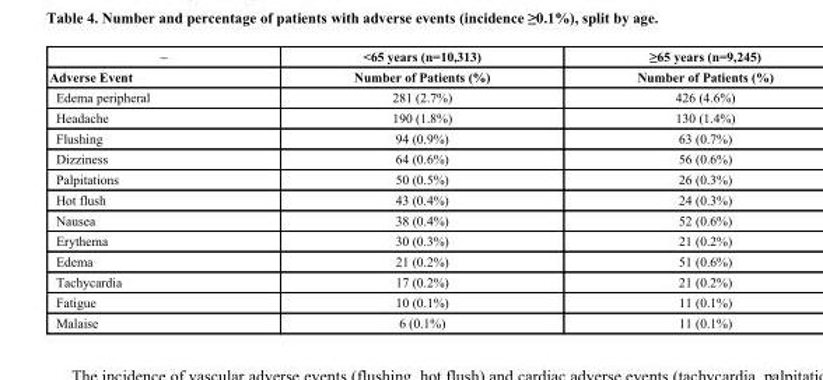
<table><thead><tr><td rowspan="2">– Adverse Event</td><td rowspan="2">&lt;65 years (n=10,313) Number of Patients (%)</td><td rowspan="2">≥65 years (n=9,245) Number of Patients (%)</td></tr><tr></tr></thead><tbody><tr><td>Edema peripheral</td><td>281 (2.7%)</td><td>426 (4.6%)</td></tr><tr><td>Headache</td><td>190 (1.8%)</td><td>130 (1.4%)</td></tr><tr><td>Flushing</td><td>94 (0.9%)</td><td>63 (0.7%)</td></tr><tr><td>Dizziness</td><td>64 (0.6%)</td><td>56 (0.6%)</td></tr><tr><td>Palpitations</td><td>50 (0.5%)</td><td>26 (0.3%)</td></tr><tr><td>Hot flush</td><td>43 (0.4%)</td><td>24 (0.3%)</td></tr><tr><td>Nausea</td><td>38 (0.4%)</td><td>52 (0.6%)</td></tr><tr><td>Erythema</td><td>30 (0.3%)</td><td>21 (0.2%)</td></tr><tr><td>Edema</td><td>21 (0.2%)</td><td>51 (0.6%)</td></tr><tr><td>Tachycardia</td><td>17 (0.2%)</td><td>21 (0.2%)</td></tr><tr><td>Fatigue</td><td>10 (0.1%)</td><td>11 (0.1%)</td></tr><tr><td>Malaise</td><td>6 (0.1%)</td><td>11 (0.1%)</td></tr></tbody></table>